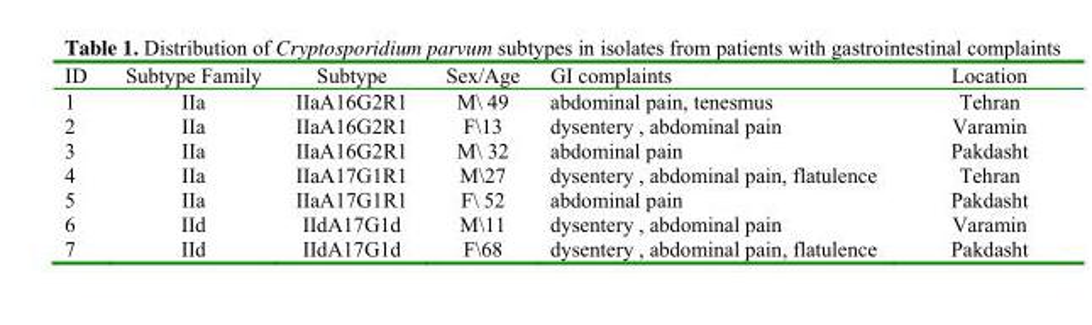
<table><thead><tr><td>ID</td><td>Subtype Family</td><td>Subtype</td><td>Sex/Age</td><td>GI complaints</td><td>Location</td></tr></thead><tbody><tr><td>1</td><td>IIa</td><td>IIaA16G2R1</td><td>M\ 49</td><td>abdominal pain, tenesmus</td><td>Tehran</td></tr><tr><td>2</td><td>IIa</td><td>IIaA16G2R1</td><td>F\13</td><td>dysentery , abdominal pain</td><td>Varamin</td></tr><tr><td>3</td><td>IIa</td><td>IIaA16G2R1</td><td>M\ 32</td><td>abdominal pain</td><td>Pakdasht</td></tr><tr><td>4</td><td>IIa</td><td>IIaA17G1R1</td><td>M\27</td><td>dysentery , abdominal pain, flatulence</td><td>Tehran</td></tr><tr><td>5</td><td>IIa</td><td>IIaA17G1R1</td><td>F\ 52</td><td>abdominal pain</td><td>Pakdasht</td></tr><tr><td>6</td><td>IId</td><td>IIdA17G1d</td><td>M\11</td><td>dysentery , abdominal pain</td><td>Varamin</td></tr><tr><td>7</td><td>IId</td><td>IIdA17G1d</td><td>F\68</td><td>dysentery , abdominal pain, flatulence</td><td>Pakdasht</td></tr></tbody></table>